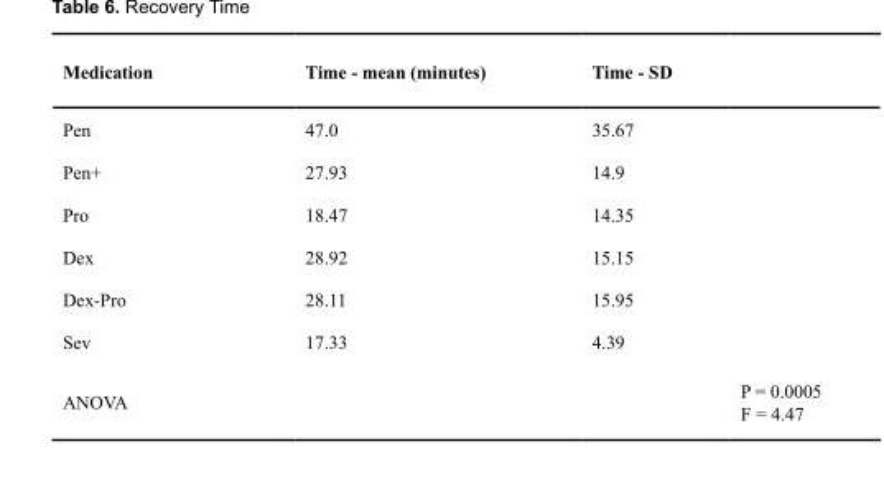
<table><thead><tr><td>Medication</td><td>Time - mean (minutes)</td><td>Time - SD</td><td></td></tr></thead><tbody><tr><td>Pen</td><td>47.0</td><td>35.67</td><td></td></tr><tr><td>Pen+</td><td>27.93</td><td>14.9</td><td></td></tr><tr><td>Pro</td><td>18.47</td><td>14.35</td><td></td></tr><tr><td>Dex</td><td>28.92</td><td>15.15</td><td></td></tr><tr><td>Dex-Pro</td><td>28.11</td><td>15.95</td><td></td></tr><tr><td>Sev</td><td>17.33</td><td>4.39</td><td></td></tr><tr><td rowspan="2">ANOVA</td><td></td><td></td><td>P = 0.0005</td></tr><tr><td></td><td></td><td>F = 4.47</td></tr></tbody></table>